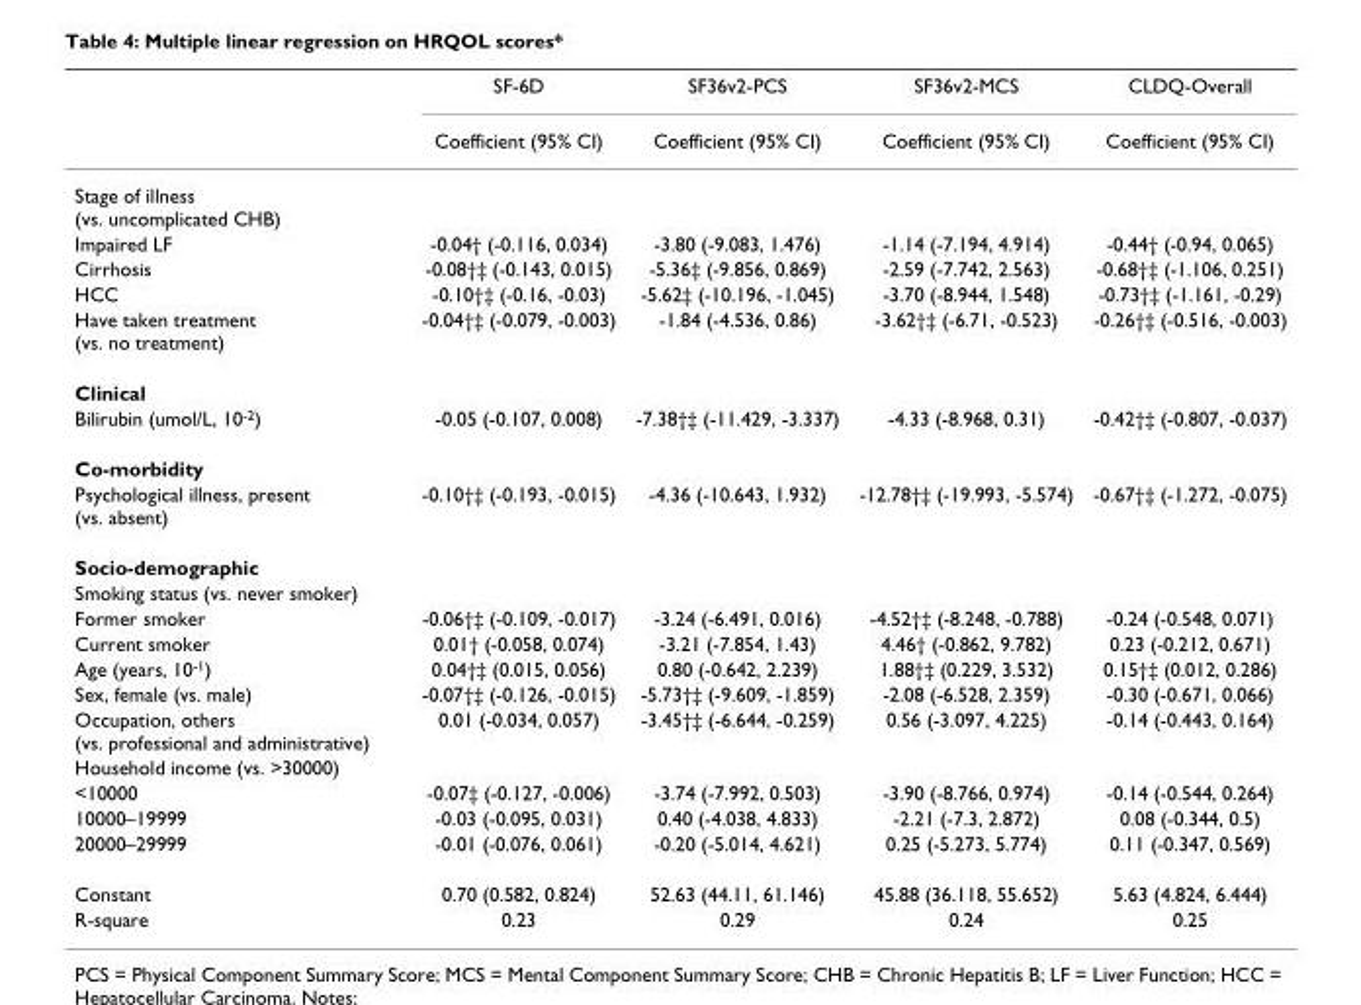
<table><thead><tr><td rowspan="2"></td><td rowspan="2">SF-6D Coefficient (95% CI)</td><td rowspan="2">SF36v2-PCS Coefficient (95% CI)</td><td rowspan="2">SF36v2-MCS Coefficient (95% CI)</td><td rowspan="2">CLDQ-Overall Coefficient (95% CI)</td></tr><tr></tr></thead><tbody><tr><td colspan="5">Stage of illness (vs. uncomplicated CHB)</td></tr><tr><td>Impaired LF</td><td>-0.04† (-0.116, 0.034)</td><td>-3.80 (-9.083, 1.476)</td><td>-1.14 (-7.194, 4.914)</td><td>-0.44† (-0.94, 0.065)</td></tr><tr><td>Cirrhosis</td><td>-0.08†‡ (-0.143, 0.015)</td><td>-5.36‡ (-9.856, 0.869)</td><td>-2.59 (-7.742, 2.563)</td><td>-0.68†‡ (-1.106, 0.251)</td></tr><tr><td>HCC</td><td>-0.10†‡ (-0.16, -0.03)</td><td>-5.62‡ (-10.196, -1.045)</td><td>-3.70 (-8.944, 1.548)</td><td>-0.73†‡ (-1.161, -0.29)</td></tr><tr><td>Have taken treatment (vs. no treatment)</td><td>-0.04†‡ (-0.079, -0.003)</td><td>-1.84 (-4.536, 0.86)</td><td>-3.62†‡ (-6.71, -0.523)</td><td>-0.26†‡ (-0.516, -0.003)</td></tr><tr><td colspan="5">Clinical</td></tr><tr><td>Bilirubin (umol/L, 10<sup>-2</sup>)</td><td>-0.05 (-0.107, 0.008)</td><td>-7.38†‡ (-11.429, -3.337)</td><td>-4.33 (-8.968, 0.31)</td><td>-0.42†‡ (-0.807, -0.037)</td></tr><tr><td colspan="5">Co-morbidity</td></tr><tr><td>Psychological illness, present (vs. absent)</td><td>-0.10†‡ (-0.193, -0.015)</td><td>-4.36 (-10.643, 1.932)</td><td>-12.78†‡ (-19.993, -5.574)</td><td>-0.67†‡ (-1.272, -0.075)</td></tr><tr><td colspan="5">Socio-demographic</td></tr><tr><td colspan="5">Smoking status (vs. never smoker)</td></tr><tr><td>Former smoker</td><td>-0.06†‡ (-0.109, -0.017)</td><td>-3.24 (-6.491, 0.016)</td><td>-4.52†‡ (-8.248, -0.788)</td><td>-0.24 (-0.548, 0.071)</td></tr><tr><td>Current smoker</td><td>0.01† (-0.058, 0.074)</td><td>-3.21 (-7.854, 1.43)</td><td>4.46† (-0.862, 9.782)</td><td>0.23 (-0.212, 0.671)</td></tr><tr><td>Age (years, 10<sup>-1</sup>)</td><td>0.04†‡ (0.015, 0.056)</td><td>0.80 (-0.642, 2.239)</td><td>1.88†‡ (0.229, 3.532)</td><td>0.15†‡ (0.012, 0.286)</td></tr><tr><td>Sex, female (vs. male)</td><td>-0.07†‡ (-0.126, -0.015)</td><td>-5.73†‡ (-9.609, -1.859)</td><td>-2.08 (-6.528, 2.359)</td><td>-0.30 (-0.671, 0.066)</td></tr><tr><td>Occupation, others (vs. professional and administrative)</td><td>0.01 (-0.034, 0.057)</td><td>-3.45†‡ (-6.644, -0.259)</td><td>0.56 (-3.097, 4.225)</td><td>-0.14 (-0.443, 0.164)</td></tr><tr><td colspan="5">Household income (vs. &gt;30000)</td></tr><tr><td>&lt;10000</td><td>-0.07‡ (-0.127, -0.006)</td><td>-3.74 (-7.992, 0.503)</td><td>-3.90 (-8.766, 0.974)</td><td>-0.14 (-0.544, 0.264)</td></tr><tr><td>10000–19999</td><td>-0.03 (-0.095, 0.031)</td><td>0.40 (-4.038, 4.833)</td><td>-2.21 (-7.3, 2.872)</td><td>0.08 (-0.344, 0.5)</td></tr><tr><td>20000–29999</td><td>-0.01 (-0.076, 0.061)</td><td>-0.20 (-5.014, 4.621)</td><td>0.25 (-5.273, 5.774)</td><td>0.11 (-0.347, 0.569)</td></tr><tr><td>Constant</td><td>0.70 (0.582, 0.824)</td><td>52.63 (44.11, 61.146)</td><td>45.88 (36.118, 55.652)</td><td>5.63 (4.824, 6.444)</td></tr><tr><td>R-square</td><td>0.23</td><td>0.29</td><td>0.24</td><td>0.25</td></tr></tbody></table>